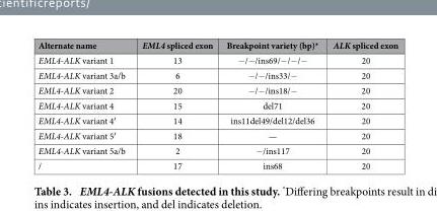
<table><thead><tr><td>Alternate name</td><td>EML4 spliced exon</td><td>Breakpoint variety (bp)*</td><td>ALK spliced exon</td></tr></thead><tbody><tr><td>EML4-ALK variant 1</td><td>13</td><td>− /− /ins69/− /− /−</td><td>20</td></tr><tr><td>EML4-ALK variant 3a/b</td><td>6</td><td>− /− /ins33/−</td><td>20</td></tr><tr><td>EML4-ALK variant 2</td><td>20</td><td>− /− /ins18/−</td><td>20</td></tr><tr><td>EML4-ALK variant 4</td><td>15</td><td>del71</td><td>20</td></tr><tr><td>EML4-ALK variant 4′</td><td>14</td><td>ins11del49/del12/del36</td><td>20</td></tr><tr><td>EML4-ALK variant 5′</td><td>18</td><td>—</td><td>20</td></tr><tr><td>EML4-ALK variant 5a/b</td><td>2</td><td>− /ins117</td><td>20</td></tr><tr><td>/</td><td>17</td><td>ins68</td><td>20</td></tr></tbody></table>